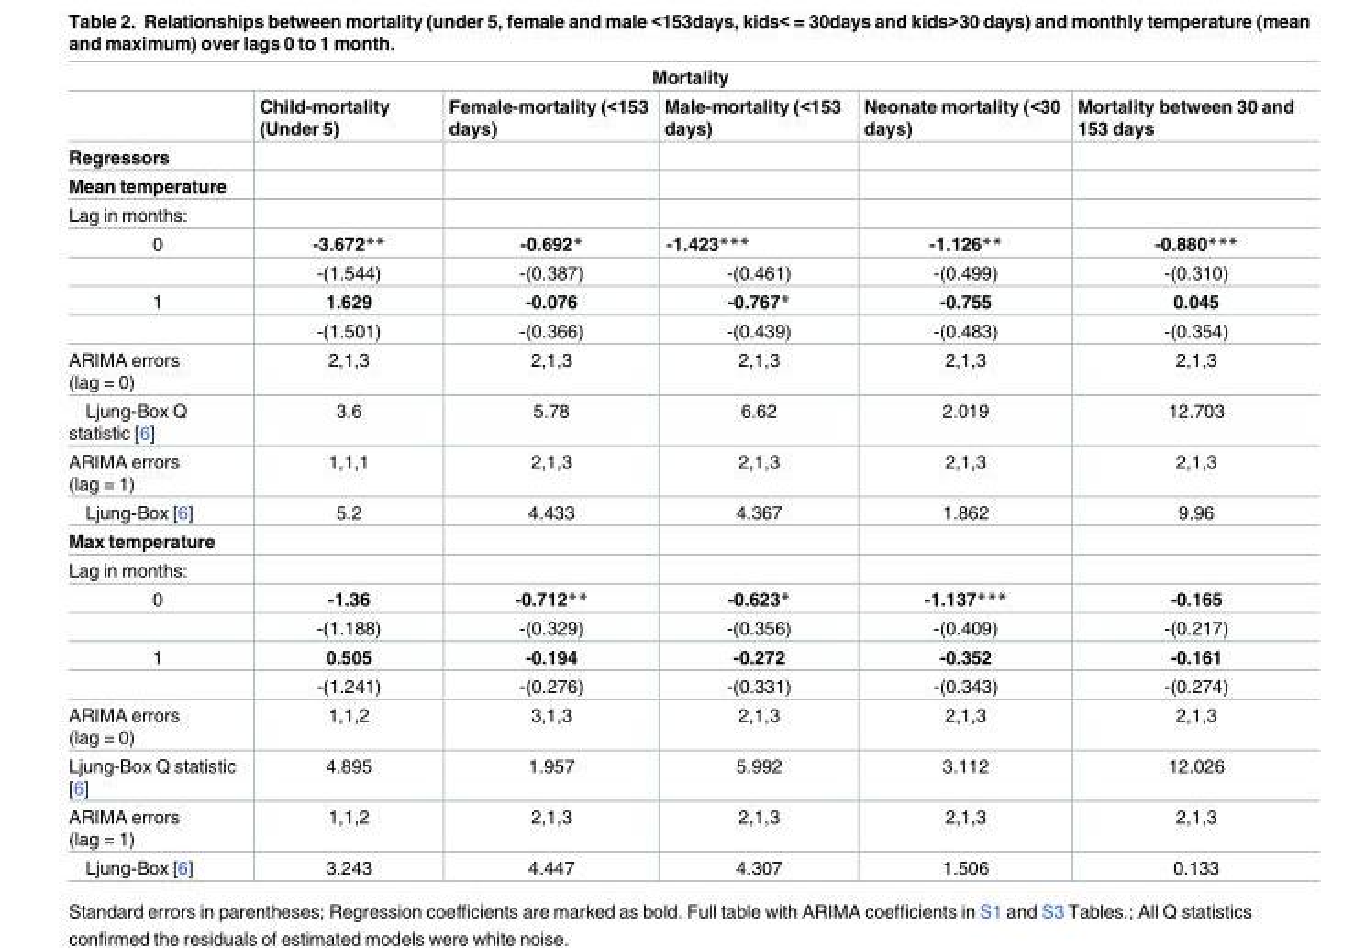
<table><thead><tr><td colspan="6">Mortality</td></tr><tr><td></td><td>Child-mortality (Under 5)</td><td>Female-mortality (&lt;153 days)</td><td>Male-mortality (&lt;153 days)</td><td>Neonate mortality (&lt;30 days)</td><td>Mortality between 30 and 153 days</td></tr></thead><tbody><tr><td colspan="6">Regressors</td></tr><tr><td colspan="6">Mean temperature</td></tr><tr><td colspan="6">Lag in months:</td></tr><tr><td rowspan="2">0</td><td>-3.672**</td><td>-0.692*</td><td>-1.423***</td><td>-1.126**</td><td>-0.880***</td></tr><tr><td>-(1.544)</td><td>-(0.387)</td><td>-(0.461)</td><td>-(0.499)</td><td>-(0.310)</td></tr><tr><td rowspan="2">1</td><td>1.629</td><td>-0.076</td><td>-0.767*</td><td>-0.755</td><td>0.045</td></tr><tr><td>-(1.501)</td><td>-(0.366)</td><td>-(0.439)</td><td>-(0.483)</td><td>-(0.354)</td></tr><tr><td>ARIMA errors (lag = 0)</td><td>2,1,3</td><td>2,1,3</td><td>2,1,3</td><td>2,1,3</td><td>2,1,3</td></tr><tr><td>Ljung-Box Q statistic [6]</td><td>3.6</td><td>5.78</td><td>6.62</td><td>2.019</td><td>12.703</td></tr><tr><td>ARIMA errors (lag = 1)</td><td>1,1,1</td><td>2,1,3</td><td>2,1,3</td><td>2,1,3</td><td>2,1,3</td></tr><tr><td>Ljung-Box [6]</td><td>5.2</td><td>4.433</td><td>4.367</td><td>1.862</td><td>9.96</td></tr><tr><td colspan="6">Max temperature</td></tr><tr><td colspan="6">Lag in months:</td></tr><tr><td rowspan="2">0</td><td>-1.36</td><td>-0.712**</td><td>-0.623*</td><td>-1.137***</td><td>-0.165</td></tr><tr><td>-(1.188)</td><td>-(0.329)</td><td>-(0.356)</td><td>-(0.409)</td><td>-(0.217)</td></tr><tr><td rowspan="2">1</td><td>0.505</td><td>-0.194</td><td>-0.272</td><td>-0.352</td><td>-0.161</td></tr><tr><td>-(1.241)</td><td>-(0.276)</td><td>-(0.331)</td><td>-(0.343)</td><td>-(0.274)</td></tr><tr><td>ARIMA errors (lag = 0)</td><td>1,1,2</td><td>3,1,3</td><td>2,1,3</td><td>2,1,3</td><td>2,1,3</td></tr><tr><td>Ljung-Box Q statistic [6]</td><td>4.895</td><td>1.957</td><td>5.992</td><td>3.112</td><td>12.026</td></tr><tr><td>ARIMA errors (lag = 1)</td><td>1,1,2</td><td>2,1,3</td><td>2,1,3</td><td>2,1,3</td><td>2,1,3</td></tr><tr><td>Ljung-Box [6]</td><td>3.243</td><td>4.447</td><td>4.307</td><td>1.506</td><td>0.133</td></tr></tbody></table>